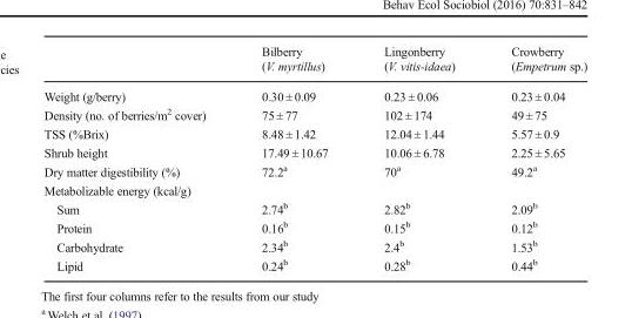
<table><thead><tr><td></td><td>Bilberry (V. myrtillus)</td><td>Lingonberry (V. vitis-idaea)</td><td>Crowberry (Empetrum sp.)</td></tr></thead><tbody><tr><td>Weight (g/berry)</td><td>0.30 ± 0.09</td><td>0.23 ± 0.06</td><td>0.23 ± 0.04</td></tr><tr><td>Density (no. of berries/m<sup>2</sup> cover)</td><td>75 ± 77</td><td>102 ± 174</td><td>49 ± 75</td></tr><tr><td>TSS (%Brix)</td><td>8.48 ± 1.42</td><td>12.04 ± 1.44</td><td>5.57 ± 0.9</td></tr><tr><td>Shrub height</td><td>17.49 ± 10.67</td><td>10.06 ± 6.78</td><td>2.25 ± 5.65</td></tr><tr><td>Dry matter digestibility (%)</td><td>72.2<sup>a</sup></td><td>70<sup>a</sup></td><td>49.2<sup>a</sup></td></tr><tr><td colspan="4">Metabolizable energy (kcal/g)</td></tr><tr><td>Sum</td><td>2.74<sup>b</sup></td><td>2.82<sup>b</sup></td><td>2.09<sup>b</sup></td></tr><tr><td>Protein</td><td>0.16<sup>b</sup></td><td>0.15<sup>b</sup></td><td>0.12<sup>b</sup></td></tr><tr><td>Carbohydrate</td><td>2.34<sup>b</sup></td><td>2.4<sup>b</sup></td><td>1.53<sup>b</sup></td></tr><tr><td>Lipid</td><td>0.24<sup>b</sup></td><td>0.28<sup>b</sup></td><td>0.44<sup>b</sup></td></tr></tbody></table>